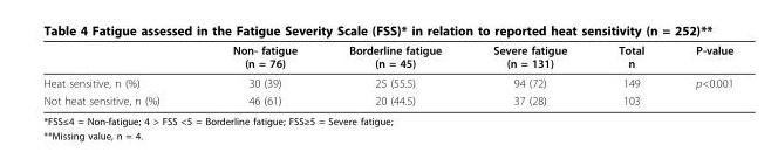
<table><thead><tr><td></td><td>Non- fatigue (n = 76)</td><td>Borderline fatigue (n = 45)</td><td>Severe fatigue (n = 131)</td><td>Total n</td><td>P-value</td></tr></thead><tbody><tr><td>Heat sensitive, n (%)</td><td>30 (39)</td><td>25 (55.5)</td><td>94 (72)</td><td>149</td><td>p&lt;0.001</td></tr><tr><td>Not heat sensitive, n (%)</td><td>46 (61)</td><td>20 (44.5)</td><td>37 (28)</td><td>103</td><td></td></tr></tbody></table>